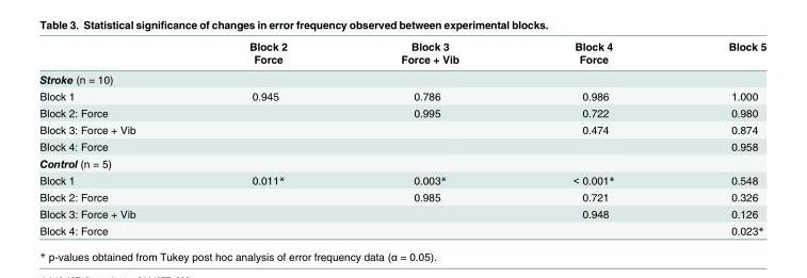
<table><thead><tr><td rowspan="2"></td><td rowspan="2">Block 2 Force</td><td rowspan="2">Block 3 Force + Vib</td><td rowspan="2">Block 4 Force</td><td rowspan="2">Block 5</td></tr><tr></tr></thead><tbody><tr><td colspan="5">Stroke (n = 10)</td></tr><tr><td>Block 1</td><td>0.945</td><td>0.786</td><td>0.986</td><td>1.000</td></tr><tr><td>Block 2: Force</td><td></td><td>0.995</td><td>0.722</td><td>0.980</td></tr><tr><td>Block 3: Force + Vib</td><td></td><td></td><td>0.474</td><td>0.874</td></tr><tr><td>Block 4: Force</td><td></td><td></td><td></td><td>0.958</td></tr><tr><td colspan="5">Control (n = 5)</td></tr><tr><td>Block 1</td><td>0.011*</td><td>0.003*</td><td>&lt; 0.001*</td><td>0.548</td></tr><tr><td>Block 2: Force</td><td></td><td>0.985</td><td>0.721</td><td>0.326</td></tr><tr><td>Block 3: Force + Vib</td><td></td><td></td><td>0.948</td><td>0.126</td></tr><tr><td>Block 4: Force</td><td></td><td></td><td></td><td>0.023*</td></tr></tbody></table>